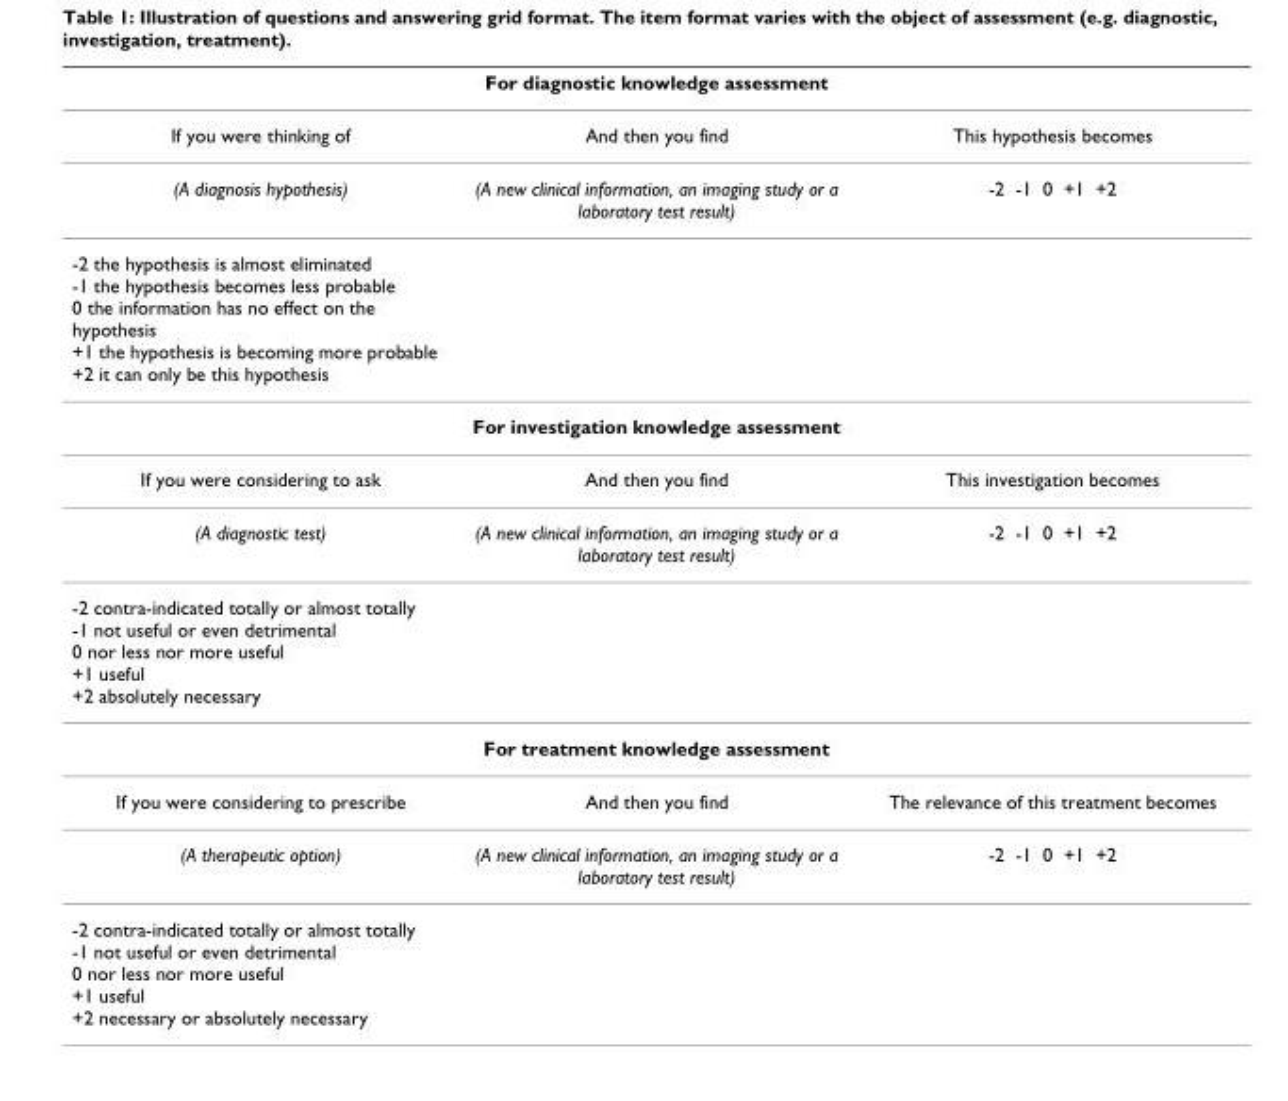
<table><thead><tr><td colspan="3">For diagnostic knowledge assessment</td></tr><tr><td>If you were thinking of</td><td>And then you find</td><td>This hypothesis becomes</td></tr></thead><tbody><tr><td>(A diagnosis hypothesis)</td><td>(A new clinical information, an imaging study or a laboratory test result)</td><td>-2 -1 0 +1 +2</td></tr><tr><td colspan="3">-2 the hypothesis is almost eliminated -1 the hypothesis becomes less probable 0 the information has no effect on the hypothesis +1 the hypothesis is becoming more probable +2 it can only be this hypothesis</td></tr><tr><td colspan="3">For investigation knowledge assessment</td></tr><tr><td>If you were considering to ask</td><td>And then you find</td><td>This investigation becomes</td></tr><tr><td>(A diagnostic test)</td><td>(A new clinical information, an imaging study or a laboratory test result)</td><td>-2 -1 0 +1 +2</td></tr><tr><td colspan="3">-2 contra-indicated totally or almost totally -1 not useful or even detrimental 0 nor less nor more useful +1 useful +2 absolutely necessary</td></tr><tr><td colspan="3">For treatment knowledge assessment</td></tr><tr><td>If you were considering to prescribe</td><td>And then you find</td><td>The relevance of this treatment becomes</td></tr><tr><td>(A therapeutic option)</td><td>(A new clinical information, an imaging study or a laboratory test result)</td><td>-2 -1 0 +1 +2</td></tr><tr><td>-2 contra-indicated totally or almost totally -1 not useful or even detrimental 0 nor less nor more useful +1 useful +2 necessary or absolutely necessary</td><td></td><td></td></tr></tbody></table>